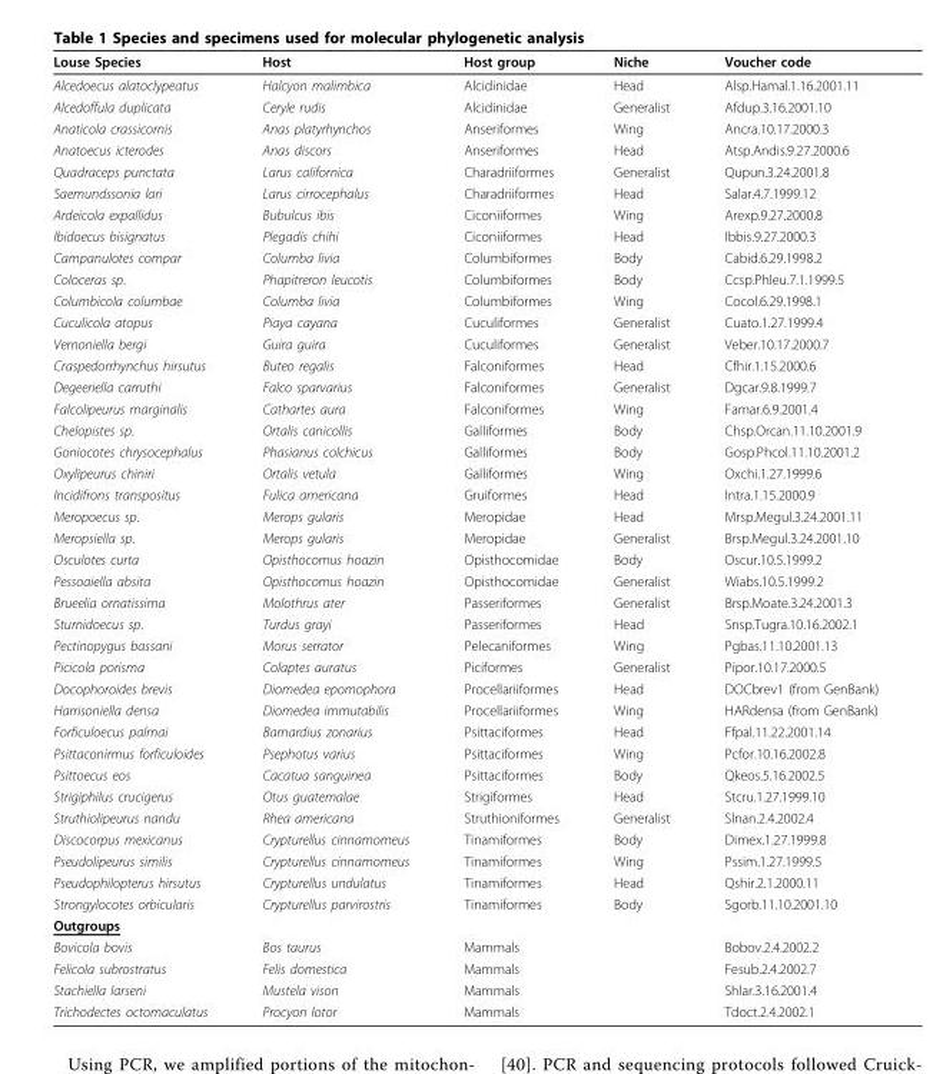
<table><thead><tr><td>Louse Species</td><td>Host</td><td>Host group</td><td>Niche</td><td>Voucher code</td></tr></thead><tbody><tr><td>Alcedoecus alatoclypeatus</td><td>Halcyon malimbica</td><td>Alcidinidae</td><td>Head</td><td>Alsp.Hamal.1.16.2001.11</td></tr><tr><td>Alcedoffula duplicata</td><td>Ceryle rudis</td><td>Alcidinidae</td><td>Generalist</td><td>Afdup.3.16.2001.10</td></tr><tr><td>Anaticola crassicornis</td><td>Anas platyrhynchos</td><td>Anseriformes</td><td>Wing</td><td>Ancra.10.17.2000.3</td></tr><tr><td>Anatoecus icterodes</td><td>Anas discors</td><td>Anseriformes</td><td>Head</td><td>Atsp.Andis.9.27.2000.6</td></tr><tr><td>Quadraceps punctata</td><td>Larus californica</td><td>Charadriiformes</td><td>Generalist</td><td>Qupun.3.24.2001.8</td></tr><tr><td>Saemundssonia lari</td><td>Larus cirrocephalus</td><td>Charadriiformes</td><td>Head</td><td>Salar.4.7.1999.12</td></tr><tr><td>Ardeicola expallidus</td><td>Bubulcus ibis</td><td>Ciconiiformes</td><td>Wing</td><td>Arexp.9.27.2000.8</td></tr><tr><td>Ibidoecus bisignatus</td><td>Plegadis chihi</td><td>Ciconiiformes</td><td>Head</td><td>Ibbis.9.27.2000.3</td></tr><tr><td>Campanulotes compar</td><td>Columba livia</td><td>Columbiformes</td><td>Body</td><td>Cabid.6.29.1998.2</td></tr><tr><td>Coloceras sp.</td><td>Phapitreron leucotis</td><td>Columbiformes</td><td>Body</td><td>Ccsp.Phleu.7.1.1999.5</td></tr><tr><td>Columbicola columbae</td><td>Columba livia</td><td>Columbiformes</td><td>Wing</td><td>Cocol.6.29.1998.1</td></tr><tr><td>Cuculicola atopus</td><td>Piaya cayana</td><td>Cuculiformes</td><td>Generalist</td><td>Cuato.1.27.1999.4</td></tr><tr><td>Vernoniella bergi</td><td>Guira guira</td><td>Cuculiformes</td><td>Generalist</td><td>Veber.10.17.2000.7</td></tr><tr><td>Craspedorrhynchus hirsutus</td><td>Buteo regalis</td><td>Falconiformes</td><td>Head</td><td>Cfhir.1.15.2000.6</td></tr><tr><td>Degeeriella carruthi</td><td>Falco sparvarius</td><td>Falconiformes</td><td>Generalist</td><td>Dgcar.9.8.1999.7</td></tr><tr><td>Falcolipeurus marginalis</td><td>Cathartes aura</td><td>Falconiformes</td><td>Wing</td><td>Famar.6.9.2001.4</td></tr><tr><td>Chelopistes sp.</td><td>Ortalis canicollis</td><td>Galliformes</td><td>Body</td><td>Chsp.Orcan.11.10.2001.9</td></tr><tr><td>Goniocotes chrysocephalus</td><td>Phasianus colchicus</td><td>Galliformes</td><td>Body</td><td>Gosp.Phcol.11.10.2001.2</td></tr><tr><td>Oxylipeurus chiniri</td><td>Ortalis vetula</td><td>Galliformes</td><td>Wing</td><td>Oxchi.1.27.1999.6</td></tr><tr><td>Incidifrons transpositus</td><td>Fulica americana</td><td>Gruiformes</td><td>Head</td><td>Intra.1.15.2000.9</td></tr><tr><td>Meropoecus sp.</td><td>Merops gularis</td><td>Meropidae</td><td>Head</td><td>Mrsp.Megul.3.24.2001.11</td></tr><tr><td>Meropsiella sp.</td><td>Merops gularis</td><td>Meropidae</td><td>Generalist</td><td>Brsp.Megul.3.24.2001.10</td></tr><tr><td>Osculotes curta</td><td>Opisthocomus hoazin</td><td>Opisthocomidae</td><td>Body</td><td>Oscur.10.5.1999.2</td></tr><tr><td>Pessoaiella absita</td><td>Opisthocomus hoazin</td><td>Opisthocomidae</td><td>Generalist</td><td>Wiabs.10.5.1999.2</td></tr><tr><td>Brueelia ornatissima</td><td>Molothrus ater</td><td>Passeriformes</td><td>Generalist</td><td>Brsp.Moate.3.24.2001.3</td></tr><tr><td>Sturnidoecus sp.</td><td>Turdus grayi</td><td>Passeriformes</td><td>Head</td><td>Snsp.Tugra.10.16.2002.1</td></tr><tr><td>Pectinopygus bassani</td><td>Morus serrator</td><td>Pelecaniformes</td><td>Wing</td><td>Pgbas.11.10.2001.13</td></tr><tr><td>Picicola porisma</td><td>Colaptes auratus</td><td>Piciformes</td><td>Generalist</td><td>Pipor.10.17.2000.5</td></tr><tr><td>Docophoroides brevis</td><td>Diomedea epomophora</td><td>Procellariiformes</td><td>Head</td><td>DOCbrev1 (from GenBank)</td></tr><tr><td>Harrisoniella densa</td><td>Diomedea immutabilis</td><td>Procellariiformes</td><td>Wing</td><td>HARdensa (from GenBank)</td></tr><tr><td>Forficuloecus palmai</td><td>Barnardius zonarius</td><td>Psittaciformes</td><td>Head</td><td>Ffpal.11.22.2001.14</td></tr><tr><td>Psittaconirmus forficuloides</td><td>Psephotus varius</td><td>Psittaciformes</td><td>Wing</td><td>Pcfor.10.16.2002.8</td></tr><tr><td>Psittoecus eos</td><td>Cacatua sanguinea</td><td>Psittaciformes</td><td>Body</td><td>Qkeos.5.16.2002.5</td></tr><tr><td>Strigiphilus crucigerus</td><td>Otus guatemalae</td><td>Strigiformes</td><td>Head</td><td>Stcru.1.27.1999.10</td></tr><tr><td>Struthiolipeurus nandu</td><td>Rhea americana</td><td>Struthioniformes</td><td>Generalist</td><td>Slnan.2.4.2002.4</td></tr><tr><td>Discocorpus mexicanus</td><td>Crypturellus cinnamomeus</td><td>Tinamiformes</td><td>Body</td><td>Dimex.1.27.1999.8</td></tr><tr><td>Pseudolipeurus similis</td><td>Crypturellus cinnamomeus</td><td>Tinamiformes</td><td>Wing</td><td>Pssim.1.27.1999.5</td></tr><tr><td>Pseudophilopterus hirsutus</td><td>Crypturellus undulatus</td><td>Tinamiformes</td><td>Head</td><td>Qshir.2.1.2000.11</td></tr><tr><td>Strongylocotes orbicularis</td><td>Crypturellus parvirostris</td><td>Tinamiformes</td><td>Body</td><td>Sgorb.11.10.2001.10</td></tr><tr><td colspan="5">Outgroups</td></tr><tr><td>Bovicola bovis</td><td>Bos taurus</td><td>Mammals</td><td></td><td>Bobov.2.4.2002.2</td></tr><tr><td>Felicola subrostratus</td><td>Felis domestica</td><td>Mammals</td><td></td><td>Fesub.2.4.2002.7</td></tr><tr><td>Stachiella larseni</td><td>Mustela vison</td><td>Mammals</td><td></td><td>Shlar.3.16.2001.4</td></tr><tr><td>Trichodectes octomaculatus</td><td>Procyon lotor</td><td>Mammals</td><td></td><td>Tdoct.2.4.2002.1</td></tr></tbody></table>